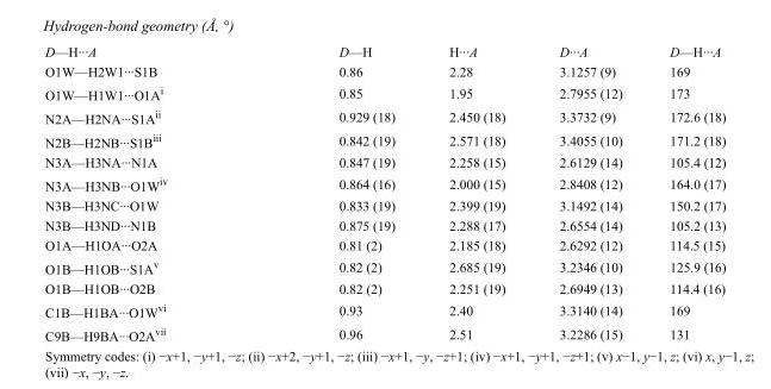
<table><tbody><tr><td>D—H···A</td><td>D—H</td><td>H···A</td><td>D···A</td><td>D—H···A</td></tr><tr><td>O1W—H2W1···S1B</td><td>0.86</td><td>2.28</td><td>3.1257 (9)</td><td>169</td></tr><tr><td>O1W—H1W1···O1A<sup>i</sup></td><td>0.85</td><td>1.95</td><td>2.7955 (12)</td><td>173</td></tr><tr><td>N2A—H2NA···S1A<sup>ii</sup></td><td>0.929 (18)</td><td>2.450 (18)</td><td>3.3732 (9)</td><td>172.6 (18)</td></tr><tr><td>N2B—H2NB···S1B<sup>iii</sup></td><td>0.842 (19)</td><td>2.571 (18)</td><td>3.4055 (10)</td><td>171.2 (18)</td></tr><tr><td>N3A—H3NA···N1A</td><td>0.847 (19)</td><td>2.258 (15)</td><td>2.6129 (14)</td><td>105.4 (12)</td></tr><tr><td>N3A—H3NB···O1W<sup>iv</sup></td><td>0.864 (16)</td><td>2.000 (15)</td><td>2.8408 (12)</td><td>164.0 (17)</td></tr><tr><td>N3B—H3NC···O1W</td><td>0.833 (19)</td><td>2.399 (19)</td><td>3.1492 (14)</td><td>150.2 (17)</td></tr><tr><td>N3B—H3ND···N1B</td><td>0.875 (19)</td><td>2.288 (17)</td><td>2.6554 (14)</td><td>105.2 (13)</td></tr><tr><td>O1A—H1OA···O2A</td><td>0.81 (2)</td><td>2.185 (18)</td><td>2.6292 (12)</td><td>114.5 (15)</td></tr><tr><td>O1B—H1OB···S1A<sup>v</sup></td><td>0.82 (2)</td><td>2.685 (19)</td><td>3.2346 (10)</td><td>125.9 (16)</td></tr><tr><td>O1B—H1OB···O2B</td><td>0.82 (2)</td><td>2.251 (19)</td><td>2.6949 (13)</td><td>114.4 (16)</td></tr><tr><td>C1B—H1BA···O1W<sup>vi</sup></td><td>0.93</td><td>2.40</td><td>3.3140 (14)</td><td>169</td></tr><tr><td>C9B—H9BA···O2A<sup>vii</sup></td><td>0.96</td><td>2.51</td><td>3.2286 (15)</td><td>131</td></tr></tbody></table>